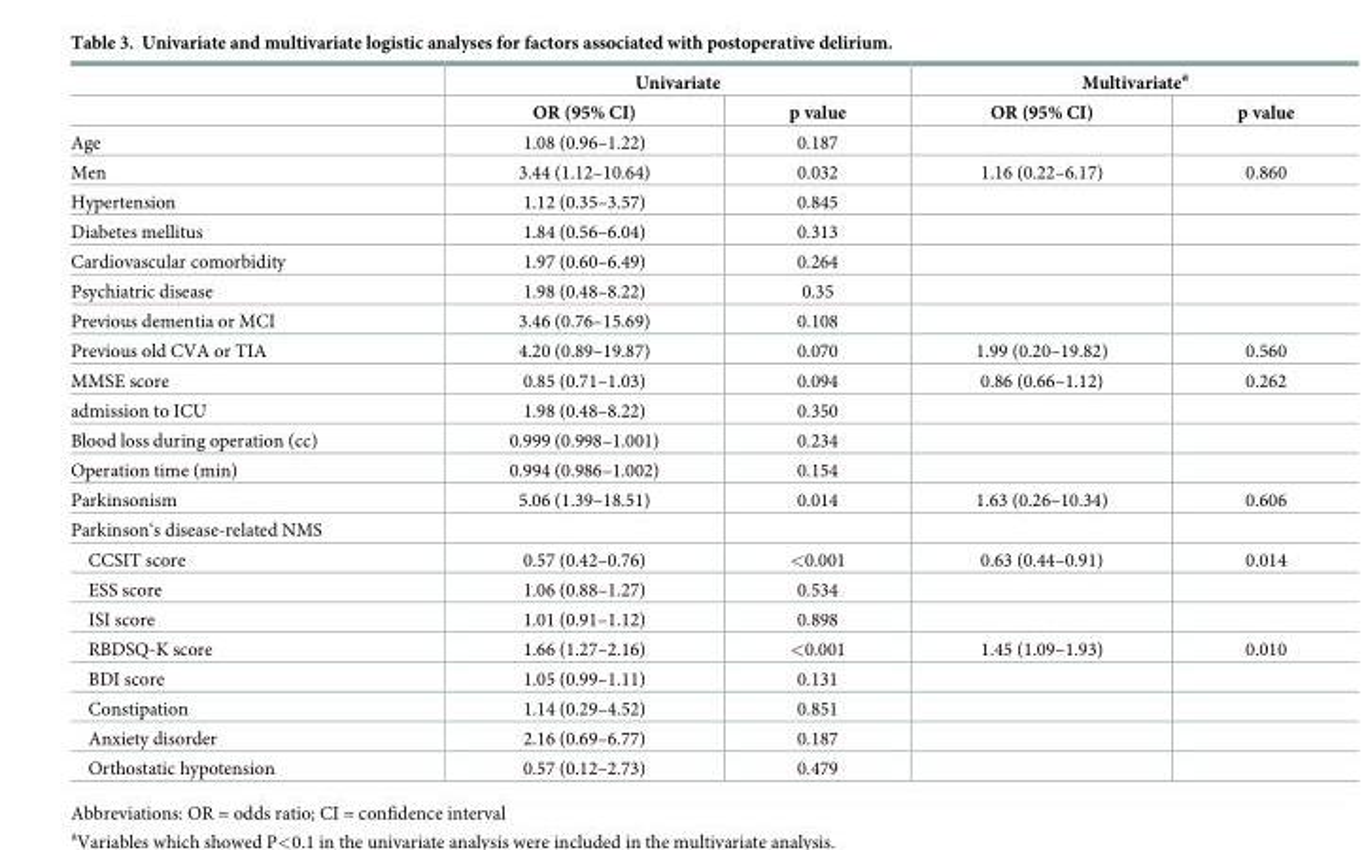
<table><thead><tr><td rowspan="2"></td><td colspan="2">Univariate</td><td colspan="2">Multivariate<sup>a</sup></td></tr><tr><td>OR (95% CI)</td><td>p value</td><td>OR (95% CI)</td><td>p value</td></tr></thead><tbody><tr><td>Age</td><td>1.08 (0.96–1.22)</td><td>0.187</td><td></td><td></td></tr><tr><td>Men</td><td>3.44 (1.12–10.64)</td><td>0.032</td><td>1.16 (0.22–6.17)</td><td>0.860</td></tr><tr><td>Hypertension</td><td>1.12 (0.35–3.57)</td><td>0.845</td><td></td><td></td></tr><tr><td>Diabetes mellitus</td><td>1.84 (0.56–6.04)</td><td>0.313</td><td></td><td></td></tr><tr><td>Cardiovascular comorbidity</td><td>1.97 (0.60–6.49)</td><td>0.264</td><td></td><td></td></tr><tr><td>Psychiatric disease</td><td>1.98 (0.48–8.22)</td><td>0.35</td><td></td><td></td></tr><tr><td>Previous dementia or MCI</td><td>3.46 (0.76–15.69)</td><td>0.108</td><td></td><td></td></tr><tr><td>Previous old CVA or TIA</td><td>4.20 (0.89–19.87)</td><td>0.070</td><td>1.99 (0.20–19.82)</td><td>0.560</td></tr><tr><td>MMSE score</td><td>0.85 (0.71–1.03)</td><td>0.094</td><td>0.86 (0.66–1.12)</td><td>0.262</td></tr><tr><td>admission to ICU</td><td>1.98 (0.48–8.22)</td><td>0.350</td><td></td><td></td></tr><tr><td>Blood loss during operation (cc)</td><td>0.999 (0.998–1.001)</td><td>0.234</td><td></td><td></td></tr><tr><td>Operation time (min)</td><td>0.994 (0.986–1.002)</td><td>0.154</td><td></td><td></td></tr><tr><td>Parkinsonism</td><td>5.06 (1.39–18.51)</td><td>0.014</td><td>1.63 (0.26–10.34)</td><td>0.606</td></tr><tr><td colspan="5">Parkinson‘s disease-related NMS</td></tr><tr><td>CCSIT score</td><td>0.57 (0.42–0.76)</td><td>&lt;0.001</td><td>0.63 (0.44–0.91)</td><td>0.014</td></tr><tr><td>ESS score</td><td>1.06 (0.88–1.27)</td><td>0.534</td><td></td><td></td></tr><tr><td>ISI score</td><td>1.01 (0.91–1.12)</td><td>0.898</td><td></td><td></td></tr><tr><td>RBDSQ-K score</td><td>1.66 (1.27–2.16)</td><td>&lt;0.001</td><td>1.45 (1.09–1.93)</td><td>0.010</td></tr><tr><td>BDI score</td><td>1.05 (0.99–1.11)</td><td>0.131</td><td></td><td></td></tr><tr><td>Constipation</td><td>1.14 (0.29–4.52)</td><td>0.851</td><td></td><td></td></tr><tr><td>Anxiety disorder</td><td>2.16 (0.69–6.77)</td><td>0.187</td><td></td><td></td></tr><tr><td>Orthostatic hypotension</td><td>0.57 (0.12–2.73)</td><td>0.479</td><td></td><td></td></tr></tbody></table>